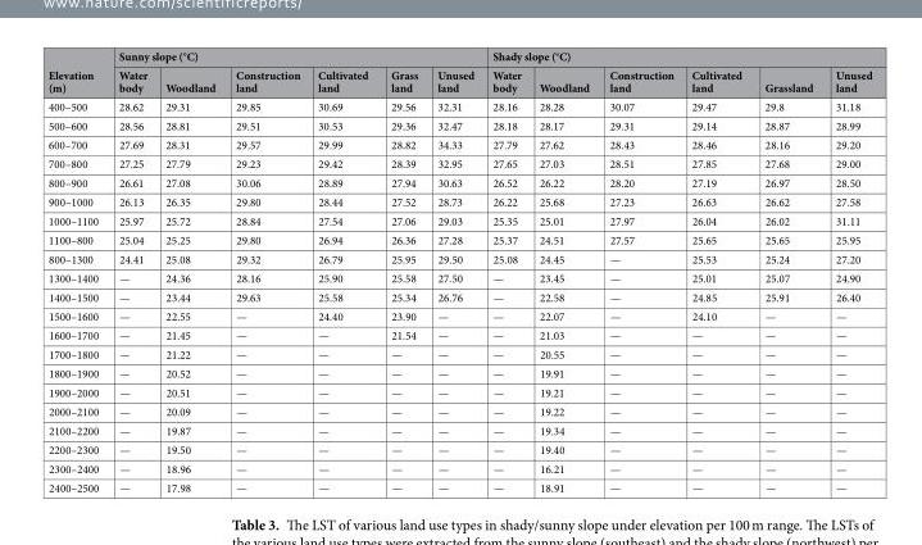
<table><thead><tr><td rowspan="2">Elevation (m)</td><td colspan="6">Sunny slope (°C)</td><td colspan="6">Shady slope (°C)</td></tr><tr><td>Water body</td><td>Woodland</td><td>Construction land</td><td>Cultivated land</td><td>Grass land</td><td>Unused land</td><td>Water body</td><td>Woodland</td><td>Construction land</td><td>Cultivated land</td><td>Grassland</td><td>Unused land</td></tr></thead><tbody><tr><td>400–500</td><td>28.62</td><td>29.31</td><td>29.85</td><td>30.69</td><td>29.56</td><td>32.31</td><td>28.16</td><td>28.28</td><td>30.07</td><td>29.47</td><td>29.8</td><td>31.18</td></tr><tr><td>500–600</td><td>28.56</td><td>28.81</td><td>29.51</td><td>30.53</td><td>29.36</td><td>32.47</td><td>28.18</td><td>28.17</td><td>29.31</td><td>29.14</td><td>28.87</td><td>28.99</td></tr><tr><td>600–700</td><td>27.69</td><td>28.31</td><td>29.57</td><td>29.99</td><td>28.82</td><td>34.33</td><td>27.79</td><td>27.62</td><td>28.43</td><td>28.46</td><td>28.16</td><td>29.20</td></tr><tr><td>700–800</td><td>27.25</td><td>27.79</td><td>29.23</td><td>29.42</td><td>28.39</td><td>32.95</td><td>27.65</td><td>27.03</td><td>28.51</td><td>27.85</td><td>27.68</td><td>29.00</td></tr><tr><td>800–900</td><td>26.61</td><td>27.08</td><td>30.06</td><td>28.89</td><td>27.94</td><td>30.63</td><td>26.52</td><td>26.22</td><td>28.20</td><td>27.19</td><td>26.97</td><td>28.50</td></tr><tr><td>900–1000</td><td>26.13</td><td>26.35</td><td>29.80</td><td>28.44</td><td>27.52</td><td>28.73</td><td>26.22</td><td>25.68</td><td>27.23</td><td>26.63</td><td>26.62</td><td>27.58</td></tr><tr><td>1000–1100</td><td>25.97</td><td>25.72</td><td>28.84</td><td>27.54</td><td>27.06</td><td>29.03</td><td>25.35</td><td>25.01</td><td>27.97</td><td>26.04</td><td>26.02</td><td>31.11</td></tr><tr><td>1100–800</td><td>25.04</td><td>25.25</td><td>29.80</td><td>26.94</td><td>26.36</td><td>27.28</td><td>25.37</td><td>24.51</td><td>27.57</td><td>25.65</td><td>25.65</td><td>25.95</td></tr><tr><td>800–1300</td><td>24.41</td><td>25.08</td><td>29.32</td><td>26.79</td><td>25.95</td><td>29.50</td><td>25.08</td><td>24.45</td><td>—</td><td>25.53</td><td>25.24</td><td>27.20</td></tr><tr><td>1300–1400</td><td>—</td><td>24.36</td><td>28.16</td><td>25.90</td><td>25.58</td><td>27.50</td><td>—</td><td>23.45</td><td>—</td><td>25.01</td><td>25.07</td><td>24.90</td></tr><tr><td>1400–1500</td><td>—</td><td>23.44</td><td>29.63</td><td>25.58</td><td>25.34</td><td>26.76</td><td>—</td><td>22.58</td><td>—</td><td>24.85</td><td>25.91</td><td>26.40</td></tr><tr><td>1500–1600</td><td>—</td><td>22.55</td><td>—</td><td>24.40</td><td>23.90</td><td>—</td><td>—</td><td>22.07</td><td>—</td><td>24.10</td><td>—</td><td>—</td></tr><tr><td>1600–1700</td><td>—</td><td>21.45</td><td>—</td><td>—</td><td>21.54</td><td>—</td><td>—</td><td>21.03</td><td>—</td><td>—</td><td>—</td><td>—</td></tr><tr><td>1700–1800</td><td>—</td><td>21.22</td><td>—</td><td>—</td><td>—</td><td>—</td><td>—</td><td>20.55</td><td>—</td><td>—</td><td>—</td><td>—</td></tr><tr><td>1800–1900</td><td>—</td><td>20.52</td><td>—</td><td>—</td><td>—</td><td>—</td><td>—</td><td>19.91</td><td>—</td><td>—</td><td>—</td><td>—</td></tr><tr><td>1900–2000</td><td>—</td><td>20.51</td><td>—</td><td>—</td><td>—</td><td>—</td><td>—</td><td>19.21</td><td>—</td><td>—</td><td>—</td><td>—</td></tr><tr><td>2000–2100</td><td>—</td><td>20.09</td><td>—</td><td>—</td><td>—</td><td>—</td><td>—</td><td>19.22</td><td>—</td><td>—</td><td>—</td><td>—</td></tr><tr><td>2100–2200</td><td>—</td><td>19.87</td><td>—</td><td>—</td><td>—</td><td>—</td><td>—</td><td>19.34</td><td>—</td><td>—</td><td>—</td><td>—</td></tr><tr><td>2200–2300</td><td>—</td><td>19.50</td><td>—</td><td>—</td><td>—</td><td>—</td><td>—</td><td>19.40</td><td>—</td><td>—</td><td>—</td><td>—</td></tr><tr><td>2300–2400</td><td>—</td><td>18.96</td><td>—</td><td>—</td><td>—</td><td>—</td><td>—</td><td>16.21</td><td>—</td><td>—</td><td>—</td><td>—</td></tr><tr><td>2400–2500</td><td>—</td><td>17.98</td><td>—</td><td>—</td><td>—</td><td>—</td><td>—</td><td>18.91</td><td>—</td><td>—</td><td>—</td><td>—</td></tr></tbody></table>